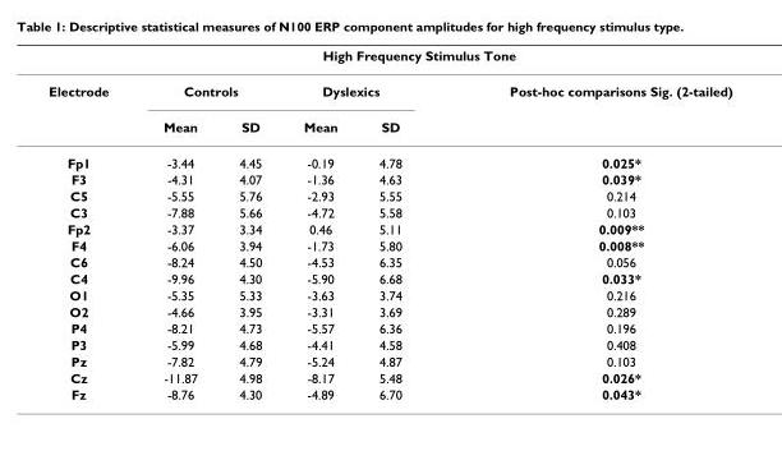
<table><thead><tr><td colspan="6">High Frequency Stimulus Tone</td></tr><tr><td rowspan="2">Electrode</td><td colspan="2">Controls</td><td colspan="2">Dyslexics</td><td rowspan="2">Post-hoc comparisons Sig. (2-tailed)</td></tr><tr><td>Mean</td><td>SD</td><td>Mean</td><td>SD</td></tr></thead><tbody><tr><td>Fp1</td><td>-3.44</td><td>4.45</td><td>-0.19</td><td>4.78</td><td>0.025*</td></tr><tr><td>F3</td><td>-4.31</td><td>4.07</td><td>-1.36</td><td>4.63</td><td>0.039*</td></tr><tr><td>C5</td><td>-5.55</td><td>5.76</td><td>-2.93</td><td>5.55</td><td>0.214</td></tr><tr><td>C3</td><td>-7.88</td><td>5.66</td><td>-4.72</td><td>5.58</td><td>0.103</td></tr><tr><td>Fp2</td><td>-3.37</td><td>3.34</td><td>0.46</td><td>5.11</td><td>0.009**</td></tr><tr><td>F4</td><td>-6.06</td><td>3.94</td><td>-1.73</td><td>5.80</td><td>0.008**</td></tr><tr><td>C6</td><td>-8.24</td><td>4.50</td><td>-4.53</td><td>6.35</td><td>0.056</td></tr><tr><td>C4</td><td>-9.96</td><td>4.30</td><td>-5.90</td><td>6.68</td><td>0.033*</td></tr><tr><td>O1</td><td>-5.35</td><td>5.33</td><td>-3.63</td><td>3.74</td><td>0.216</td></tr><tr><td>O2</td><td>-4.66</td><td>3.95</td><td>-3.31</td><td>3.69</td><td>0.289</td></tr><tr><td>P4</td><td>-8.21</td><td>4.73</td><td>-5.57</td><td>6.36</td><td>0.196</td></tr><tr><td>P3</td><td>-5.99</td><td>4.68</td><td>-4.41</td><td>4.58</td><td>0.408</td></tr><tr><td>Pz</td><td>-7.82</td><td>4.79</td><td>-5.24</td><td>4.87</td><td>0.103</td></tr><tr><td>Cz</td><td>-11.87</td><td>4.98</td><td>-8.17</td><td>5.48</td><td>0.026*</td></tr><tr><td>Fz</td><td>-8.76</td><td>4.30</td><td>-4.89</td><td>6.70</td><td>0.043*</td></tr></tbody></table>